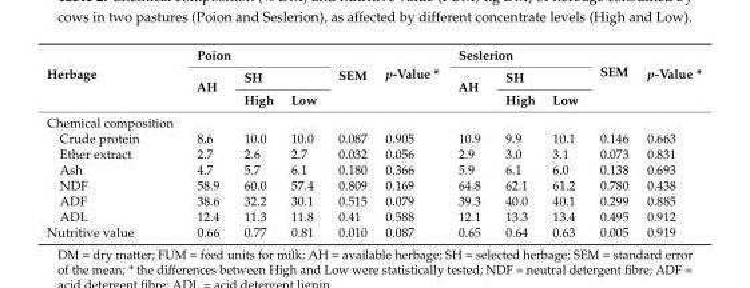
<table><thead><tr><td rowspan="3">Herbage</td><td colspan="3">Poion</td><td rowspan="3">SEM</td><td rowspan="3">p-Value *</td><td colspan="3">Seslerion</td><td rowspan="3">SEM</td><td rowspan="3">p-Value *</td></tr><tr><td rowspan="2">AH</td><td colspan="2">SH</td><td rowspan="2">AH</td><td colspan="2">SH</td></tr><tr><td>High</td><td>Low</td><td>High</td><td>Low</td></tr></thead><tbody><tr><td colspan="11">Chemical composition</td></tr><tr><td>Crude protein</td><td>8.6</td><td>10.0</td><td>10.0</td><td>0.087</td><td>0.905</td><td>10.9</td><td>9.9</td><td>10.1</td><td>0.146</td><td>0.663</td></tr><tr><td>Ether extract</td><td>2.7</td><td>2.6</td><td>2.7</td><td>0.032</td><td>0.056</td><td>2.9</td><td>3.0</td><td>3.1</td><td>0.073</td><td>0.831</td></tr><tr><td>Ash</td><td>4.7</td><td>5.7</td><td>6.1</td><td>0.180</td><td>0.366</td><td>5.9</td><td>6.1</td><td>6.0</td><td>0.138</td><td>0.693</td></tr><tr><td>NDF</td><td>58.9</td><td>60.0</td><td>57.4</td><td>0.809</td><td>0.169</td><td>64.8</td><td>62.1</td><td>61.2</td><td>0.780</td><td>0.438</td></tr><tr><td>ADF</td><td>38.6</td><td>32.2</td><td>30.1</td><td>0.515</td><td>0.079</td><td>39.3</td><td>40.0</td><td>40.1</td><td>0.299</td><td>0.885</td></tr><tr><td>ADL</td><td>12.4</td><td>11.3</td><td>11.8</td><td>0.41</td><td>0.588</td><td>12.1</td><td>13.3</td><td>13.4</td><td>0.495</td><td>0.912</td></tr><tr><td>Nutritive value</td><td>0.66</td><td>0.77</td><td>0.81</td><td>0.010</td><td>0.087</td><td>0.65</td><td>0.64</td><td>0.63</td><td>0.005</td><td>0.919</td></tr></tbody></table>